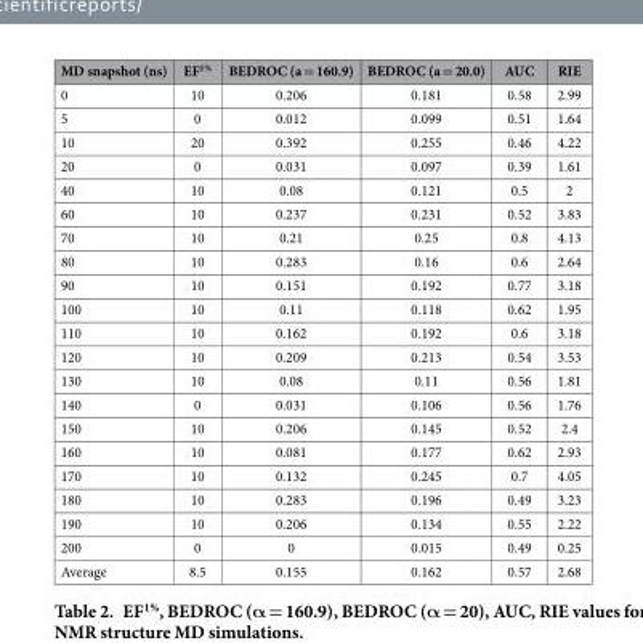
<table><thead><tr><td>MD snapshot (ns)</td><td>EF<sup>1%</sup></td><td>BEDROC (a = 160.9)</td><td>BEDROC (a = 20.0)</td><td>AUC</td><td>RIE</td></tr></thead><tbody><tr><td>0</td><td>10</td><td>0.206</td><td>0.181</td><td>0.58</td><td>2.99</td></tr><tr><td>5</td><td>0</td><td>0.012</td><td>0.099</td><td>0.51</td><td>1.64</td></tr><tr><td>10</td><td>20</td><td>0.392</td><td>0.255</td><td>0.46</td><td>4.22</td></tr><tr><td>20</td><td>0</td><td>0.031</td><td>0.097</td><td>0.39</td><td>1.61</td></tr><tr><td>40</td><td>10</td><td>0.08</td><td>0.121</td><td>0.5</td><td>2</td></tr><tr><td>60</td><td>10</td><td>0.237</td><td>0.231</td><td>0.52</td><td>3.83</td></tr><tr><td>70</td><td>10</td><td>0.21</td><td>0.25</td><td>0.8</td><td>4.13</td></tr><tr><td>80</td><td>10</td><td>0.283</td><td>0.16</td><td>0.6</td><td>2.64</td></tr><tr><td>90</td><td>10</td><td>0.151</td><td>0.192</td><td>0.77</td><td>3.18</td></tr><tr><td>100</td><td>10</td><td>0.11</td><td>0.118</td><td>0.62</td><td>1.95</td></tr><tr><td>110</td><td>10</td><td>0.162</td><td>0.192</td><td>0.6</td><td>3.18</td></tr><tr><td>120</td><td>10</td><td>0.209</td><td>0.213</td><td>0.54</td><td>3.53</td></tr><tr><td>130</td><td>10</td><td>0.08</td><td>0.11</td><td>0.56</td><td>1.81</td></tr><tr><td>140</td><td>0</td><td>0.031</td><td>0.106</td><td>0.56</td><td>1.76</td></tr><tr><td>150</td><td>10</td><td>0.206</td><td>0.145</td><td>0.52</td><td>2.4</td></tr><tr><td>160</td><td>10</td><td>0.081</td><td>0.177</td><td>0.62</td><td>2.93</td></tr><tr><td>170</td><td>10</td><td>0.132</td><td>0.245</td><td>0.7</td><td>4.05</td></tr><tr><td>180</td><td>10</td><td>0.283</td><td>0.196</td><td>0.49</td><td>3.23</td></tr><tr><td>190</td><td>10</td><td>0.206</td><td>0.134</td><td>0.55</td><td>2.22</td></tr><tr><td>200</td><td>0</td><td>0</td><td>0.015</td><td>0.49</td><td>0.25</td></tr><tr><td>Average</td><td>8.5</td><td>0.155</td><td>0.162</td><td>0.57</td><td>2.68</td></tr></tbody></table>